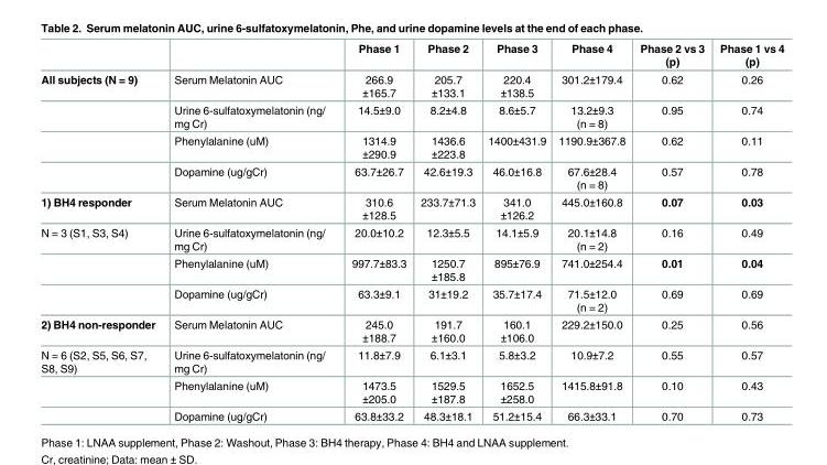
<table><thead><tr><td></td><td></td><td>Phase 1</td><td>Phase 2</td><td>Phase 3</td><td>Phase 4</td><td>Phase 2 vs 3 (p)</td><td>Phase 1 vs 4 (p)</td></tr></thead><tbody><tr><td rowspan="4">All subjects (N = 9)</td><td>Serum Melatonin AUC</td><td>266.9 ±165.7</td><td>205.7 ±133.1</td><td>220.4 ±138.5</td><td>301.2±179.4</td><td>0.62</td><td>0.26</td></tr><tr><td>Urine 6-sulfatoxymelatonin (ng/ mg Cr)</td><td>14.5±9.0</td><td>8.2±4.8</td><td>8.6±5.7</td><td>13.2±9.3 (n = 8)</td><td>0.95</td><td>0.74</td></tr><tr><td>Phenylalanine (uM)</td><td>1314.9 ±290.9</td><td>1436.6 ±223.8</td><td>1400±431.9</td><td>1190.9±367.8</td><td>0.62</td><td>0.11</td></tr><tr><td>Dopamine (ug/gCr)</td><td>63.7±26.7</td><td>42.6±19.3</td><td>46.0±16.8</td><td>67.6±28.4 (n = 8)</td><td>0.57</td><td>0.78</td></tr><tr><td>1) BH4 responder</td><td>Serum Melatonin AUC</td><td>310.6 ±128.5</td><td>233.7±71.3</td><td>341.0 ±126.2</td><td>445.0±160.8</td><td>0.07</td><td>0.03</td></tr><tr><td rowspan="3">N = 3 (S1, S3, S4)</td><td>Urine 6-sulfatoxymelatonin (ng/ mg Cr)</td><td>20.0±10.2</td><td>12.3±5.5</td><td>14.1±5.9</td><td>20.1±14.8 (n = 2)</td><td>0.16</td><td>0.49</td></tr><tr><td>Phenylalanine (uM)</td><td>997.7±83.3</td><td>1250.7 ±185.8</td><td>895±76.9</td><td>741.0±254.4</td><td>0.01</td><td>0.04</td></tr><tr><td>Dopamine (ug/gCr)</td><td>63.3±9.1</td><td>31±19.2</td><td>35.7±17.4</td><td>71.5±12.0 (n = 2)</td><td>0.69</td><td>0.69</td></tr><tr><td>2) BH4 non-responder</td><td>Serum Melatonin AUC</td><td>245.0 ±188.7</td><td>191.7 ±160.0</td><td>160.1 ±106.0</td><td>229.2±150.0</td><td>0.25</td><td>0.56</td></tr><tr><td rowspan="3">N = 6 (S2, S5, S6, S7, S8, S9)</td><td>Urine 6-sulfatoxymelatonin (ng/ mg Cr)</td><td>11.8±7.9</td><td>6.1±3.1</td><td>5.8±3.2</td><td>10.9±7.2</td><td>0.55</td><td>0.57</td></tr><tr><td>Phenylalanine (uM)</td><td>1473.5 ±205.0</td><td>1529.5 ±187.8</td><td>1652.5 ±258.0</td><td>1415.8±91.8</td><td>0.10</td><td>0.43</td></tr><tr><td>Dopamine (ug/gCr)</td><td>63.8±33.2</td><td>48.3±18.1</td><td>51.2±15.4</td><td>66.3±33.1</td><td>0.70</td><td>0.73</td></tr></tbody></table>